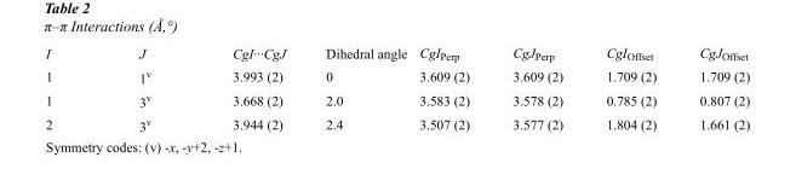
<table><tbody><tr><td>I</td><td>J</td><td>CgI···CgJ</td><td>Dihedral angle</td><td>CgI<sub>Perp</sub></td><td>CgJ<sub>Perp</sub></td><td>CgI<sub>Offset</sub></td><td>CgJ<sub>Offset</sub></td></tr><tr><td>1</td><td>1<sup>v</sup></td><td>3.993 (2)</td><td>0</td><td>3.609 (2)</td><td>3.609 (2)</td><td>1.709 (2)</td><td>1.709 (2)</td></tr><tr><td>1</td><td>3<sup>v</sup></td><td>3.668 (2)</td><td>2.0</td><td>3.583 (2)</td><td>3.578 (2)</td><td>0.785 (2)</td><td>0.807 (2)</td></tr><tr><td>2</td><td>3<sup>v</sup></td><td>3.944 (2)</td><td>2.4</td><td>3.507 (2)</td><td>3.577 (2)</td><td>1.804 (2)</td><td>1.661 (2)</td></tr></tbody></table>